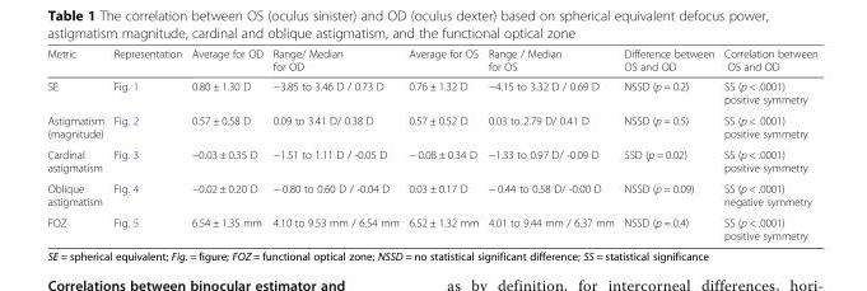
<table><thead><tr><td>Metric</td><td>Representation</td><td>Average for OD</td><td>Range/ Median for OD</td><td>Average for OS</td><td>Range / Median for OS</td><td>Difference between OS and OD</td><td>Correlation between OS and OD</td></tr></thead><tbody><tr><td>SE</td><td>Fig. 1</td><td>0.80 ± 1.30 D</td><td>−3.85 to 3.46 D / 0.73 D</td><td>0.76 ± 1.32 D</td><td>−4.15 to 3.32 D / 0.69 D</td><td>NSSD (p = 0.2)</td><td>SS (p &lt; .0001) positive symmetry</td></tr><tr><td>Astigmatism (magnitude)</td><td>Fig. 2</td><td>0.57 ± 0.58 D</td><td>0.09 to 3.41 D/ 0.38 D</td><td>0.57 ± 0.52 D</td><td>0.03 to 2.79 D/ 0.41 D</td><td>NSSD (p = 0.5)</td><td>SS (p &lt; .0001) positive symmetry</td></tr><tr><td>Cardinal astigmatism</td><td>Fig. 3</td><td>−0.03 ± 0.35 D</td><td>−1.51 to 1.11 D / -0.05 D</td><td>− 0.08 ± 0.34 D</td><td>−1.33 to 0.97 D/ -0.09 D</td><td>SSD (p = 0.02)</td><td>SS (p &lt; .0001) positive symmetry</td></tr><tr><td>Oblique astigmatism</td><td>Fig. 4</td><td>−0.02 ± 0.20 D</td><td>− 0.80 to 0.60 D / -0.04 D</td><td>0.03 ± 0.17 D</td><td>− 0.44 to 0.58 D/ -0.00 D</td><td>NSSD (p = 0.09)</td><td>SS (p &lt; .0001) negative symmetry</td></tr><tr><td>FOZ</td><td>Fig. 5</td><td>6.54 ± 1.35 mm</td><td>4.10 to 9.53 mm / 6.54 mm</td><td>6.52 ± 1.32 mm</td><td>4.01 to 9.44 mm / 6.37 mm</td><td>NSSD (p = 0.4)</td><td>SS (p &lt; .0001) positive symmetry</td></tr></tbody></table>